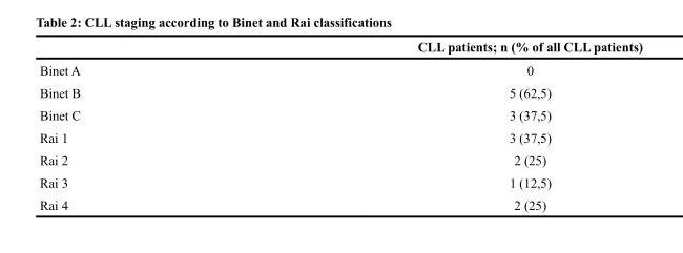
<table><thead><tr><td></td><td>CLL patients; n (% of all CLL patients)</td></tr></thead><tbody><tr><td>Binet A</td><td>0</td></tr><tr><td>Binet B</td><td>5 (62,5)</td></tr><tr><td>Binet C</td><td>3 (37,5)</td></tr><tr><td>Rai 1</td><td>3 (37,5)</td></tr><tr><td>Rai 2</td><td>2 (25)</td></tr><tr><td>Rai 3</td><td>1 (12,5)</td></tr><tr><td>Rai 4</td><td>2 (25)</td></tr></tbody></table>